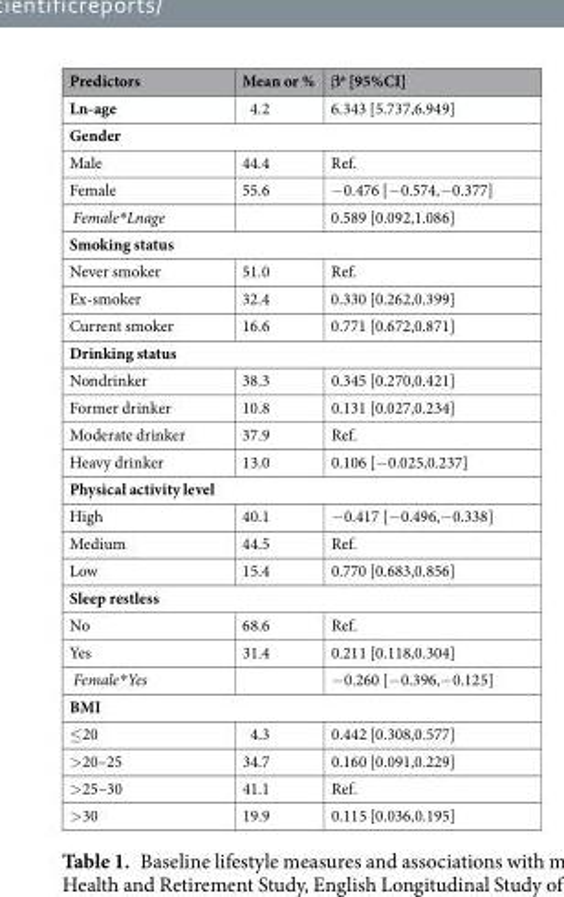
<table><thead><tr><td>Predictors</td><td>Mean or %</td><td>β<sup>a</sup> [95%CI]</td></tr></thead><tbody><tr><td>Ln-age</td><td>4.2</td><td>6.343 [5.737,6.949]</td></tr><tr><td colspan="3">Gender</td></tr><tr><td>Male</td><td>44.4</td><td>Ref.</td></tr><tr><td>Female</td><td>55.6</td><td>−0.476 [−0.574,−0.377]</td></tr><tr><td>Female*Lnage</td><td></td><td>0.589 [0.092,1.086]</td></tr><tr><td colspan="3">Smoking status</td></tr><tr><td>Never smoker</td><td>51.0</td><td>Ref.</td></tr><tr><td>Ex-smoker</td><td>32.4</td><td>0.330 [0.262,0.399]</td></tr><tr><td>Current smoker</td><td>16.6</td><td>0.771 [0.672,0.871]</td></tr><tr><td colspan="3">Drinking status</td></tr><tr><td>Nondrinker</td><td>38.3</td><td>0.345 [0.270,0.421]</td></tr><tr><td>Former drinker</td><td>10.8</td><td>0.131 [0.027,0.234]</td></tr><tr><td>Moderate drinker</td><td>37.9</td><td>Ref.</td></tr><tr><td>Heavy drinker</td><td>13.0</td><td>0.106 [−0.025,0.237]</td></tr><tr><td colspan="3">Physical activity level</td></tr><tr><td>High</td><td>40.1</td><td>−0.417 [−0.496,−0.338]</td></tr><tr><td>Medium</td><td>44.5</td><td>Ref.</td></tr><tr><td>Low</td><td>15.4</td><td>0.770 [0.683,0.856]</td></tr><tr><td colspan="3">Sleep restless</td></tr><tr><td>No</td><td>68.6</td><td>Ref.</td></tr><tr><td>Yes</td><td>31.4</td><td>0.211 [0.118,0.304]</td></tr><tr><td>Female*Yes</td><td></td><td>−0.260 [−0.396,−0.125]</td></tr><tr><td colspan="3">BMI</td></tr><tr><td>≤20</td><td>4.3</td><td>0.442 [0.308,0.577]</td></tr><tr><td>&gt;20–25</td><td>34.7</td><td>0.160 [0.091,0.229]</td></tr><tr><td>&gt;25–30</td><td>41.1</td><td>Ref.</td></tr><tr><td>&gt;30</td><td>19.9</td><td>0.115 [0.036,0.195]</td></tr></tbody></table>